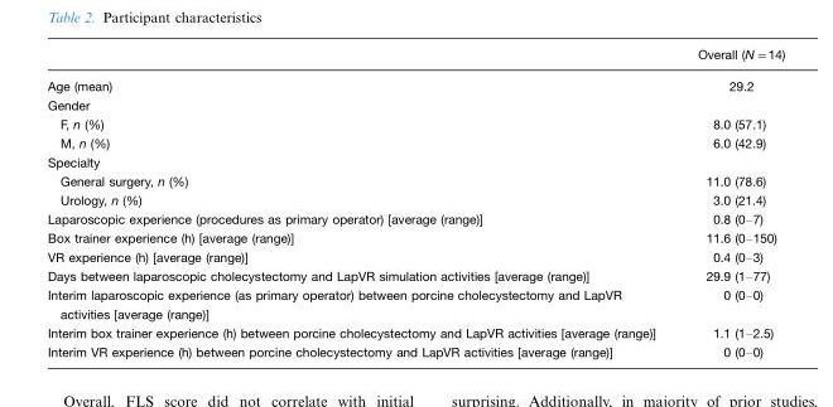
<table><thead><tr><td></td><td>Overall (N=14)</td></tr></thead><tbody><tr><td>Age (mean)</td><td>29.2</td></tr><tr><td colspan="2">Gender</td></tr><tr><td>F, n (%)</td><td>8.0 (57.1)</td></tr><tr><td>M, n (%)</td><td>6.0 (42.9)</td></tr><tr><td colspan="2">Specialty</td></tr><tr><td>General surgery, n (%)</td><td>11.0 (78.6)</td></tr><tr><td>Urology, n (%)</td><td>3.0 (21.4)</td></tr><tr><td>Laparoscopic experience (procedures as primary operator) [average (range)]</td><td>0.8 (0–7)</td></tr><tr><td>Box trainer experience (h) [average (range)]</td><td>11.6 (0–150)</td></tr><tr><td>VR experience (h) [average (range)]</td><td>0.4 (0–3)</td></tr><tr><td>Days between laparoscopic cholecystectomy and LapVR simulation activities [average (range)]</td><td>29.9 (1–77)</td></tr><tr><td>Interim laparoscopic experience (as primary operator) between porcine cholecystectomy and LapVR activities [average (range)]</td><td>0 (0–0)</td></tr><tr><td>Interim box trainer experience (h) between porcine cholecystectomy and LapVR activities [average (range)]</td><td>1.1 (1–2.5)</td></tr><tr><td>Interim VR experience (h) between porcine cholecystectomy and LapVR activities [average (range)]</td><td>0 (0–0)</td></tr></tbody></table>